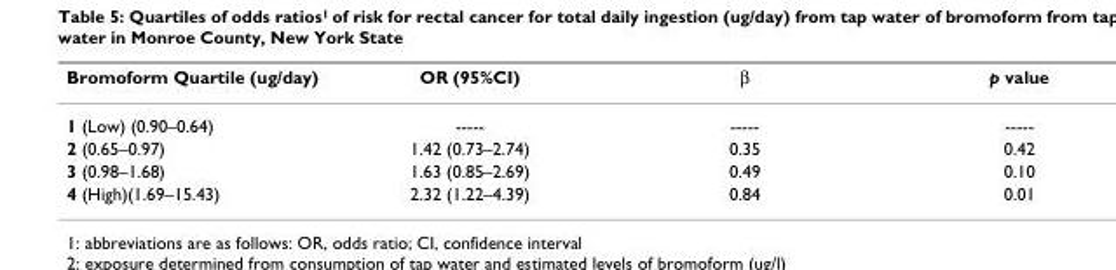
<table><thead><tr><td>Bromoform Quartile (ug/day)</td><td>OR (95%CI)</td><td>β</td><td>p value</td></tr></thead><tbody><tr><td>1 (Low) (0.90–0.64)</td><td>-----</td><td>-----</td><td>-----</td></tr><tr><td>2 (0.65–0.97)</td><td>1.42 (0.73–2.74)</td><td>0.35</td><td>0.42</td></tr><tr><td>3 (0.98–1.68)</td><td>1.63 (0.85–2.69)</td><td>0.49</td><td>0.10</td></tr><tr><td>4 (High)(1.69–15.43)</td><td>2.32 (1.22–4.39)</td><td>0.84</td><td>0.01</td></tr></tbody></table>